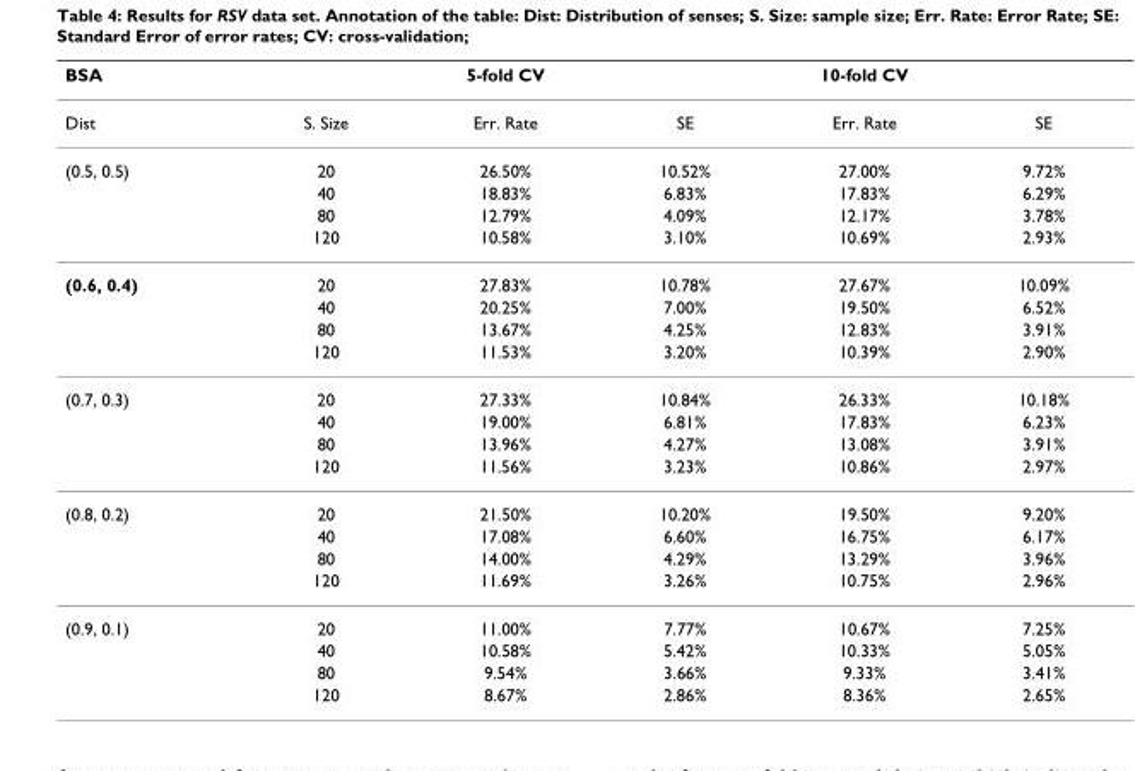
<table><thead><tr><td>BSA</td><td></td><td>5-fold CV</td><td></td><td>10-fold CV</td><td></td></tr></thead><tbody><tr><td>Dist</td><td>S. Size</td><td>Err. Rate</td><td>SE</td><td>Err. Rate</td><td>SE</td></tr><tr><td rowspan="4">(0.5, 0.5)</td><td>20</td><td>26.50%</td><td>10.52%</td><td>27.00%</td><td>9.72%</td></tr><tr><td>40</td><td>18.83%</td><td>6.83%</td><td>17.83%</td><td>6.29%</td></tr><tr><td>80</td><td>12.79%</td><td>4.09%</td><td>12.17%</td><td>3.78%</td></tr><tr><td>120</td><td>10.58%</td><td>3.10%</td><td>10.69%</td><td>2.93%</td></tr><tr><td rowspan="4">(0.6, 0.4)</td><td>20</td><td>27.83%</td><td>10.78%</td><td>27.67%</td><td>10.09%</td></tr><tr><td>40</td><td>20.25%</td><td>7.00%</td><td>19.50%</td><td>6.52%</td></tr><tr><td>80</td><td>13.67%</td><td>4.25%</td><td>12.83%</td><td>3.91%</td></tr><tr><td>120</td><td>11.53%</td><td>3.20%</td><td>10.39%</td><td>2.90%</td></tr><tr><td rowspan="4">(0.7, 0.3)</td><td>20</td><td>27.33%</td><td>10.84%</td><td>26.33%</td><td>10.18%</td></tr><tr><td>40</td><td>19.00%</td><td>6.81%</td><td>17.83%</td><td>6.23%</td></tr><tr><td>80</td><td>13.96%</td><td>4.27%</td><td>13.08%</td><td>3.91%</td></tr><tr><td>120</td><td>11.56%</td><td>3.23%</td><td>10.86%</td><td>2.97%</td></tr><tr><td rowspan="4">(0.8, 0.2)</td><td>20</td><td>21.50%</td><td>10.20%</td><td>19.50%</td><td>9.20%</td></tr><tr><td>40</td><td>17.08%</td><td>6.60%</td><td>16.75%</td><td>6.17%</td></tr><tr><td>80</td><td>14.00%</td><td>4.29%</td><td>13.29%</td><td>3.96%</td></tr><tr><td>120</td><td>11.69%</td><td>3.26%</td><td>10.75%</td><td>2.96%</td></tr><tr><td rowspan="4">(0.9, 0.1)</td><td>20</td><td>11.00%</td><td>7.77%</td><td>10.67%</td><td>7.25%</td></tr><tr><td>40</td><td>10.58%</td><td>5.42%</td><td>10.33%</td><td>5.05%</td></tr><tr><td>80</td><td>9.54%</td><td>3.66%</td><td>9.33%</td><td>3.41%</td></tr><tr><td>120</td><td>8.67%</td><td>2.86%</td><td>8.36%</td><td>2.65%</td></tr></tbody></table>